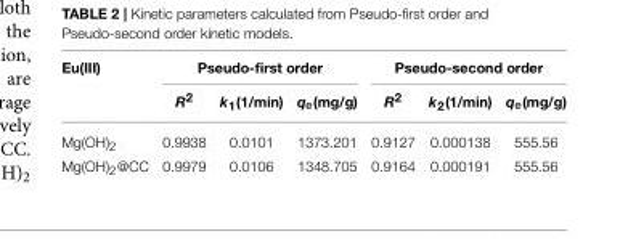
<table><thead><tr><td rowspan="2">Eu(III)</td><td colspan="3">Pseudo-first order</td><td colspan="3">Pseudo-second order</td></tr><tr><td>R<sup>2</sup></td><td>k<sub>1</sub>(1/min)</td><td>q<sub>e</sub>(mg/g)</td><td>R<sup>2</sup></td><td>k<sub>2</sub>(1/min)</td><td>q<sub>e</sub>(mg/g)</td></tr></thead><tbody><tr><td>Mg(OH)<sub>2</sub></td><td>0.9938</td><td>0.0101</td><td>1373.201</td><td>0.9127</td><td>0.000138</td><td>555.56</td></tr><tr><td>Mg(OH)<sub>2</sub>@CC</td><td>0.9979</td><td>0.0106</td><td>1348.705</td><td>0.9164</td><td>0.000191</td><td>555.56</td></tr></tbody></table>